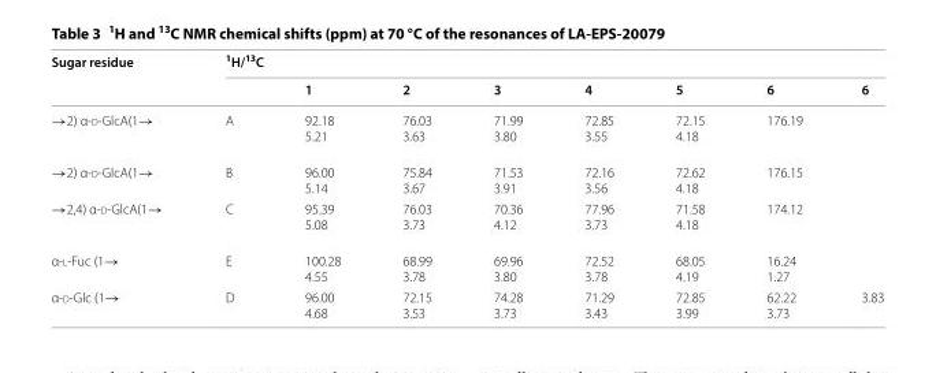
<table><thead><tr><td rowspan="2">Sugar residue</td><td colspan="8"><sup>1</sup>H/<sup>13</sup>C</td></tr><tr><td></td><td>1</td><td>2</td><td>3</td><td>4</td><td>5</td><td>6</td><td>6</td></tr></thead><tbody><tr><td>→2) α‑d‑GlcA(1→</td><td>A</td><td>92.18 5.21</td><td>76.03 3.63</td><td>71.99 3.80</td><td>72.85 3.55</td><td>72.15 4.18</td><td>176.19</td><td></td></tr><tr><td>→2) α‑d‑GlcA(1→</td><td>B</td><td>96.00 5.14</td><td>75.84 3.67</td><td>71.53 3.91</td><td>72.16 3.56</td><td>72.62 4.18</td><td>176.15</td><td></td></tr><tr><td>→2,4) α‑d‑GlcA(1→</td><td>C</td><td>95.39 5.08</td><td>76.03 3.73</td><td>70.36 4.12</td><td>77.96 3.73</td><td>71.58 4.18</td><td>174.12</td><td></td></tr><tr><td>α‑l‑Fuc (1→</td><td>E</td><td>100.28 4.55</td><td>68.99 3.78</td><td>69.96 3.80</td><td>72.52 3.78</td><td>68.05 4.19</td><td>16.24 1.27</td><td></td></tr><tr><td>α‑d‑Glc (1→</td><td>D</td><td>96.00 4.68</td><td>72.15 3.53</td><td>74.28 3.73</td><td>71.29 3.43</td><td>72.85 3.99</td><td>62.22 3.73</td><td>3.83</td></tr></tbody></table>